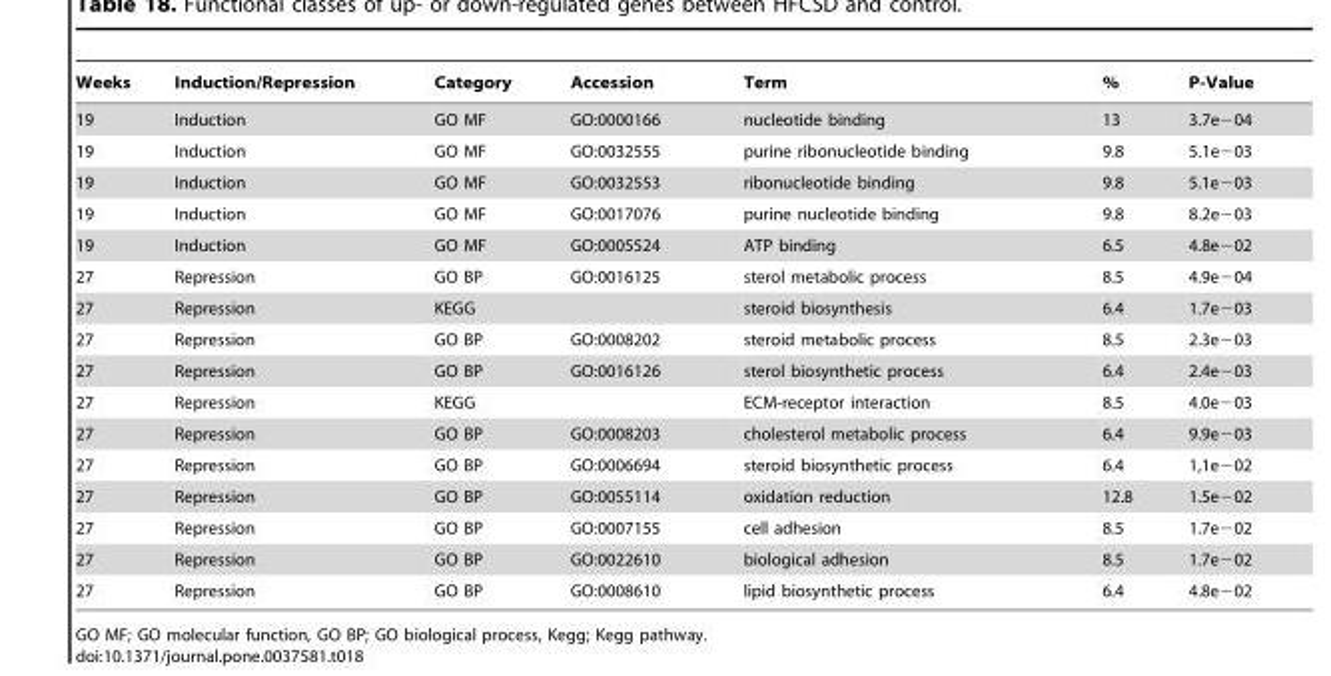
<table><thead><tr><td>Weeks</td><td>Induction/Repression</td><td>Category</td><td>Accession</td><td>Term</td><td>%</td><td>P-Value</td></tr></thead><tbody><tr><td>19</td><td>Induction</td><td>GO MF</td><td>GO:0000166</td><td>nucleotide binding</td><td>13</td><td>3.7e−04</td></tr><tr><td>19</td><td>Induction</td><td>GO MF</td><td>GO:0032555</td><td>purine ribonucleotide binding</td><td>9.8</td><td>5.1e−03</td></tr><tr><td>19</td><td>Induction</td><td>GO MF</td><td>GO:0032553</td><td>ribonucleotide binding</td><td>9.8</td><td>5.1e−03</td></tr><tr><td>19</td><td>Induction</td><td>GO MF</td><td>GO:0017076</td><td>purine nucleotide binding</td><td>9.8</td><td>8.2e−03</td></tr><tr><td>19</td><td>Induction</td><td>GO MF</td><td>GO:0005524</td><td>ATP binding</td><td>6.5</td><td>4.8e−02</td></tr><tr><td>27</td><td>Repression</td><td>GO BP</td><td>GO:0016125</td><td>sterol metabolic process</td><td>8.5</td><td>4.9e−04</td></tr><tr><td>27</td><td>Repression</td><td>KEGG</td><td></td><td>steroid biosynthesis</td><td>6.4</td><td>1.7e−03</td></tr><tr><td>27</td><td>Repression</td><td>GO BP</td><td>GO:0008202</td><td>steroid metabolic process</td><td>8.5</td><td>2.3e−03</td></tr><tr><td>27</td><td>Repression</td><td>GO BP</td><td>GO:0016126</td><td>sterol biosynthetic process</td><td>6.4</td><td>2.4e−03</td></tr><tr><td>27</td><td>Repression</td><td>KEGG</td><td></td><td>ECM-receptor interaction</td><td>8.5</td><td>4.0e−03</td></tr><tr><td>27</td><td>Repression</td><td>GO BP</td><td>GO:0008203</td><td>cholesterol metabolic process</td><td>6.4</td><td>9.9e−03</td></tr><tr><td>27</td><td>Repression</td><td>GO BP</td><td>GO:0006694</td><td>steroid biosynthetic process</td><td>6.4</td><td>1,1e−02</td></tr><tr><td>27</td><td>Repression</td><td>GO BP</td><td>GO:0055114</td><td>oxidation reduction</td><td>12.8</td><td>1.5e−02</td></tr><tr><td>27</td><td>Repression</td><td>GO BP</td><td>GO:0007155</td><td>cell adhesion</td><td>8.5</td><td>1.7e−02</td></tr><tr><td>27</td><td>Repression</td><td>GO BP</td><td>GO:0022610</td><td>biological adhesion</td><td>8.5</td><td>1.7e−02</td></tr><tr><td>27</td><td>Repression</td><td>GO BP</td><td>GO:0008610</td><td>lipid biosynthetic process</td><td>6.4</td><td>4.8e−02</td></tr></tbody></table>